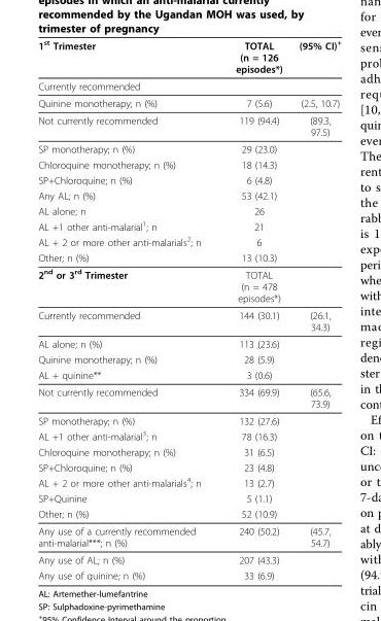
<table><thead><tr><td>1<sup>st</sup> Trimester</td><td>TOTAL (n = 126 episodes*)</td><td>(95% CI)<sup>+</sup></td></tr></thead><tbody><tr><td colspan="3">Currently recommended</td></tr><tr><td>Quinine monotherapy; n (%)</td><td>7 (5.6)</td><td>(2.5, 10.7)</td></tr><tr><td>Not currently recommended</td><td>119 (94.4)</td><td>(89.3, 97.5)</td></tr><tr><td>SP monotherapy; n (%)</td><td>29 (23.0)</td><td></td></tr><tr><td>Chloroquine monotherapy; n (%)</td><td>18 (14.3)</td><td></td></tr><tr><td>SP+Chloroquine; n (%)</td><td>6 (4.8)</td><td></td></tr><tr><td>Any AL; n (%)</td><td>53 (42.1)</td><td></td></tr><tr><td>AL alone; n</td><td>26</td><td></td></tr><tr><td>AL +1 other anti-malarial<sup>1</sup>; n</td><td>21</td><td></td></tr><tr><td>AL + 2 or more other anti-malarials<sup>2</sup>; n</td><td>6</td><td></td></tr><tr><td>Other; n (%)</td><td>13 (10.3)</td><td></td></tr><tr><td>2<sup>nd</sup> or 3<sup>rd</sup> Trimester</td><td>TOTAL (n = 478 episodes*)</td><td></td></tr><tr><td>Currently recommended</td><td>144 (30.1)</td><td>(26.1, 34.3)</td></tr><tr><td>AL alone; n (%)</td><td>113 (23.6)</td><td></td></tr><tr><td>Quinine monotherapy; n (%)</td><td>28 (5.9)</td><td></td></tr><tr><td>AL + quinine**</td><td>3 (0.6)</td><td></td></tr><tr><td>Not currently recommended</td><td>334 (69.9)</td><td>(65.6, 73.9)</td></tr><tr><td>SP monotherapy; n (%)</td><td>132 (27.6)</td><td></td></tr><tr><td>AL +1 other anti-malarial<sup>3</sup>; n</td><td>78 (16.3)</td><td></td></tr><tr><td>Chloroquine monotherapy; n (%)</td><td>31 (6.5)</td><td></td></tr><tr><td>SP+Chloroquine; n (%)</td><td>23 (4.8)</td><td></td></tr><tr><td>AL + 2 or more other anti-malarials<sup>4</sup>; n</td><td>13 (2.7)</td><td></td></tr><tr><td>SP+Quinine</td><td>5 (1.1)</td><td></td></tr><tr><td>Other; n (%)</td><td>52 (10.9)</td><td></td></tr><tr><td>Any use of a currently recommended anti-malarial***; n (%)</td><td>240 (50.2)</td><td>(45.7, 54.7)</td></tr><tr><td>Any use of AL; n (%)</td><td>207 (43.3)</td><td></td></tr><tr><td>Any use of quinine; n (%)</td><td>33 (6.9)</td><td></td></tr></tbody></table>